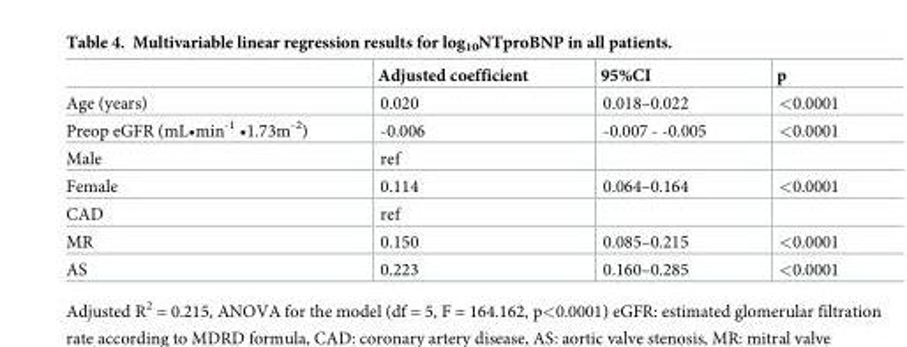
<table><thead><tr><td></td><td>Adjusted coefficient</td><td>95%CI</td><td>p</td></tr></thead><tbody><tr><td>Age (years)</td><td>0.020</td><td>0.018–0.022</td><td>&lt;0.0001</td></tr><tr><td>Preop eGFR (mL•min<sup>-1</sup> •1.73m<sup>-2</sup>)</td><td>-0.006</td><td>-0.007 - -0.005</td><td>&lt;0.0001</td></tr><tr><td>Male</td><td>ref</td><td></td><td></td></tr><tr><td>Female</td><td>0.114</td><td>0.064–0.164</td><td>&lt;0.0001</td></tr><tr><td>CAD</td><td>ref</td><td></td><td></td></tr><tr><td>MR</td><td>0.150</td><td>0.085–0.215</td><td>&lt;0.0001</td></tr><tr><td>AS</td><td>0.223</td><td>0.160–0.285</td><td>&lt;0.0001</td></tr></tbody></table>